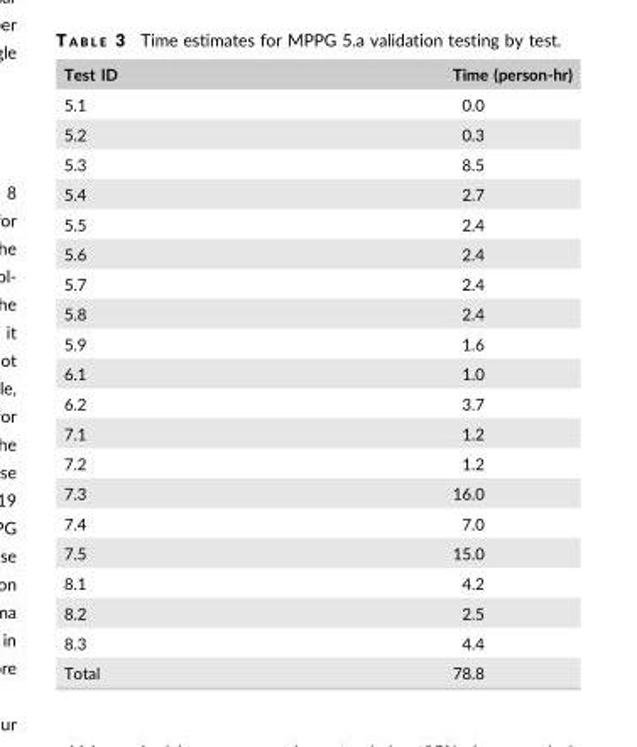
<table><thead><tr><td>Test ID</td><td>Time (person-hr)</td></tr></thead><tbody><tr><td>5.1</td><td>0.0</td></tr><tr><td>5.2</td><td>0.3</td></tr><tr><td>5.3</td><td>8.5</td></tr><tr><td>5.4</td><td>2.7</td></tr><tr><td>5.5</td><td>2.4</td></tr><tr><td>5.6</td><td>2.4</td></tr><tr><td>5.7</td><td>2.4</td></tr><tr><td>5.8</td><td>2.4</td></tr><tr><td>5.9</td><td>1.6</td></tr><tr><td>6.1</td><td>1.0</td></tr><tr><td>6.2</td><td>3.7</td></tr><tr><td>7.1</td><td>1.2</td></tr><tr><td>7.2</td><td>1.2</td></tr><tr><td>7.3</td><td>16.0</td></tr><tr><td>7.4</td><td>7.0</td></tr><tr><td>7.5</td><td>15.0</td></tr><tr><td>8.1</td><td>4.2</td></tr><tr><td>8.2</td><td>2.5</td></tr><tr><td>8.3</td><td>4.4</td></tr><tr><td>Total</td><td>78.8</td></tr></tbody></table>